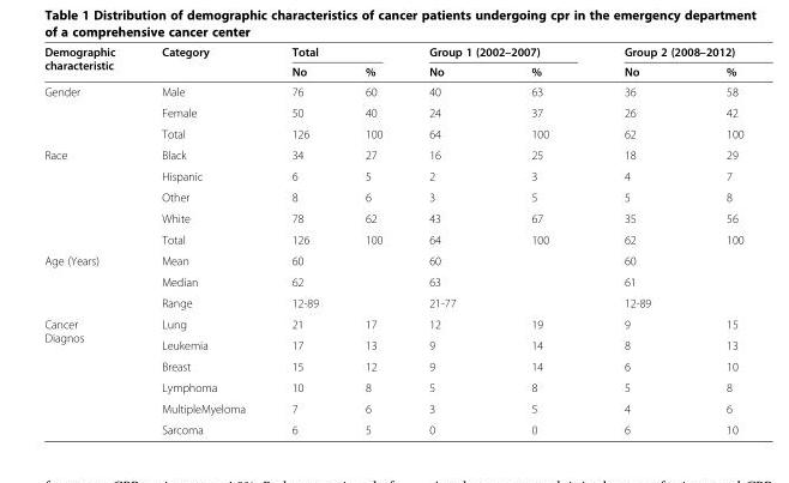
<table><thead><tr><td rowspan="2">Demographic characteristic</td><td rowspan="2">Category</td><td colspan="2">Total</td><td colspan="2">Group 1 (2002–2007)</td><td colspan="2">Group 2 (2008–2012)</td></tr><tr><td>No</td><td>%</td><td>No</td><td>%</td><td>No</td><td>%</td></tr></thead><tbody><tr><td rowspan="3">Gender</td><td>Male</td><td>76</td><td>60</td><td>40</td><td>63</td><td>36</td><td>58</td></tr><tr><td>Female</td><td>50</td><td>40</td><td>24</td><td>37</td><td>26</td><td>42</td></tr><tr><td>Total</td><td>126</td><td>100</td><td>64</td><td>100</td><td>62</td><td>100</td></tr><tr><td rowspan="5">Race</td><td>Black</td><td>34</td><td>27</td><td>16</td><td>25</td><td>18</td><td>29</td></tr><tr><td>Hispanic</td><td>6</td><td>5</td><td>2</td><td>3</td><td>4</td><td>7</td></tr><tr><td>Other</td><td>8</td><td>6</td><td>3</td><td>5</td><td>5</td><td>8</td></tr><tr><td>White</td><td>78</td><td>62</td><td>43</td><td>67</td><td>35</td><td>56</td></tr><tr><td>Total</td><td>126</td><td>100</td><td>64</td><td>100</td><td>62</td><td>100</td></tr><tr><td rowspan="3">Age (Years)</td><td>Mean</td><td>60</td><td></td><td>60</td><td></td><td>60</td><td></td></tr><tr><td>Median</td><td>62</td><td></td><td>63</td><td></td><td>61</td><td></td></tr><tr><td>Range</td><td>12-89</td><td></td><td>21-77</td><td></td><td>12-89</td><td></td></tr><tr><td rowspan="6">Cancer Diagnos</td><td>Lung</td><td>21</td><td>17</td><td>12</td><td>19</td><td>9</td><td>15</td></tr><tr><td>Leukemia</td><td>17</td><td>13</td><td>9</td><td>14</td><td>8</td><td>13</td></tr><tr><td>Breast</td><td>15</td><td>12</td><td>9</td><td>14</td><td>6</td><td>10</td></tr><tr><td>Lymphoma</td><td>10</td><td>8</td><td>5</td><td>8</td><td>5</td><td>8</td></tr><tr><td>MultipleMyeloma</td><td>7</td><td>6</td><td>3</td><td>5</td><td>4</td><td>6</td></tr><tr><td>Sarcoma</td><td>6</td><td>5</td><td>0</td><td>0</td><td>6</td><td>10</td></tr></tbody></table>